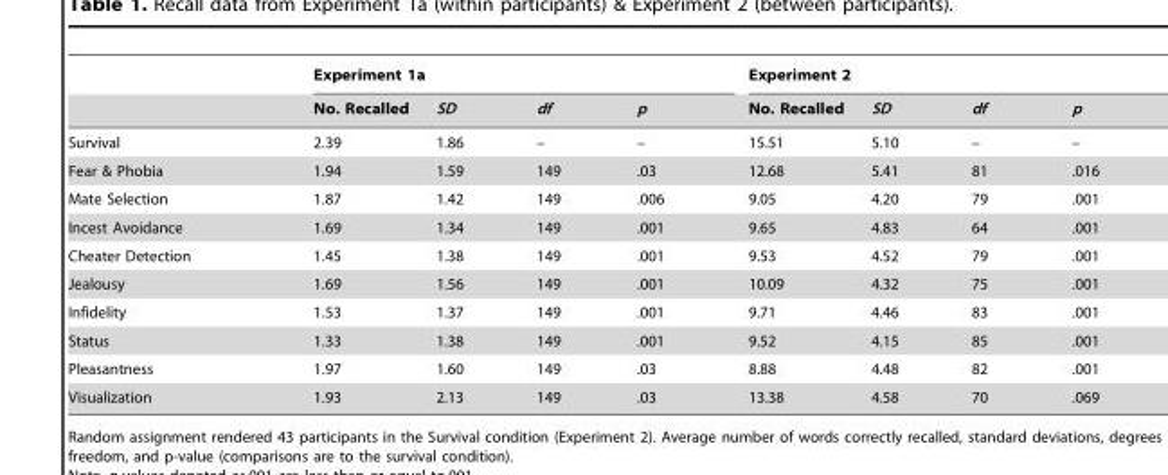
<table><thead><tr><td rowspan="2"></td><td colspan="4">Experiment 1a</td><td colspan="4">Experiment 2</td></tr><tr><td>No. Recalled</td><td>SD</td><td>df</td><td>p</td><td>No. Recalled</td><td>SD</td><td>df</td><td>p</td></tr></thead><tbody><tr><td>Survival</td><td>2.39</td><td>1.86</td><td>–</td><td>–</td><td>15.51</td><td>5.10</td><td>–</td><td>–</td></tr><tr><td>Fear &amp; Phobia</td><td>1.94</td><td>1.59</td><td>149</td><td>.03</td><td>12.68</td><td>5.41</td><td>81</td><td>.016</td></tr><tr><td>Mate Selection</td><td>1.87</td><td>1.42</td><td>149</td><td>.006</td><td>9.05</td><td>4.20</td><td>79</td><td>.001</td></tr><tr><td>Incest Avoidance</td><td>1.69</td><td>1.34</td><td>149</td><td>.001</td><td>9.65</td><td>4.83</td><td>64</td><td>.001</td></tr><tr><td>Cheater Detection</td><td>1.45</td><td>1.38</td><td>149</td><td>.001</td><td>9.53</td><td>4.52</td><td>79</td><td>.001</td></tr><tr><td>Jealousy</td><td>1.69</td><td>1.56</td><td>149</td><td>.001</td><td>10.09</td><td>4.32</td><td>75</td><td>.001</td></tr><tr><td>Infidelity</td><td>1.53</td><td>1.37</td><td>149</td><td>.001</td><td>9.71</td><td>4.46</td><td>83</td><td>.001</td></tr><tr><td>Status</td><td>1.33</td><td>1.38</td><td>149</td><td>.001</td><td>9.52</td><td>4.15</td><td>85</td><td>.001</td></tr><tr><td>Pleasantness</td><td>1.97</td><td>1.60</td><td>149</td><td>.03</td><td>8.88</td><td>4.48</td><td>82</td><td>.001</td></tr><tr><td>Visualization</td><td>1.93</td><td>2.13</td><td>149</td><td>.03</td><td>13.38</td><td>4.58</td><td>70</td><td>.069</td></tr></tbody></table>